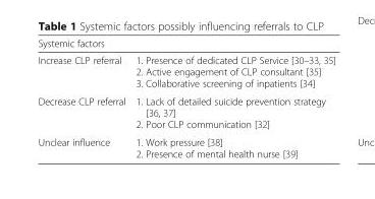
<table><thead><tr><td colspan="2">Systemic factors</td></tr><tr><td>Increase CLP referral</td><td>1. Presence of dedicated CLP Service [30–33, 35] 2. Active engagement of CLP consultant [35] 3. Collaborative screening of inpatients [34]</td></tr></thead><tbody><tr><td>Decrease CLP referral</td><td>1. Lack of detailed suicide prevention strategy [36, 37] 2. Poor CLP communication [32]</td></tr><tr><td>Unclear influence</td><td>1. Work pressure [38] 2. Presence of mental health nurse [39]</td></tr></tbody></table>